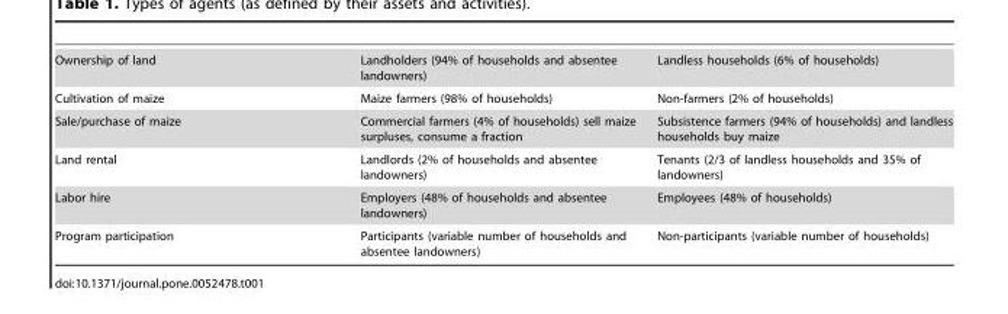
<table><tbody><tr><td>Ownership of land</td><td>Landholders (94% of households and absentee landowners)</td><td>Landless households (6% of households)</td></tr><tr><td>Cultivation of maize</td><td>Maize farmers (98% of households)</td><td>Non-farmers (2% of households)</td></tr><tr><td>Sale/purchase of maize</td><td>Commercial farmers (4% of households) sell maize surpluses, consume a fraction</td><td>Subsistence farmers (94% of households) and landless households buy maize</td></tr><tr><td>Land rental</td><td>Landlords (2% of households and absentee landowners)</td><td>Tenants (2/3 of landless households and 35% of landowners)</td></tr><tr><td>Labor hire</td><td>Employers (48% of households and absentee landowners)</td><td>Employees (48% of households)</td></tr><tr><td>Program participation</td><td>Participants (variable number of households and absentee landowners)</td><td>Non-participants (variable number of households)</td></tr></tbody></table>